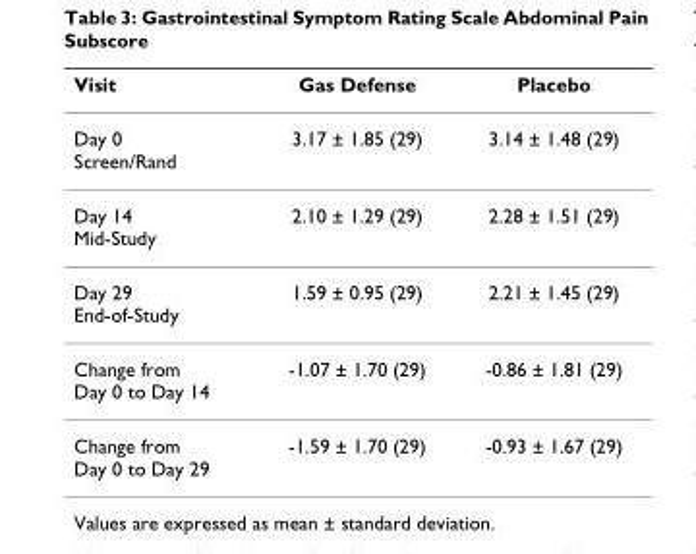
<table><thead><tr><td>Visit</td><td>Gas Defense</td><td>Placebo</td></tr></thead><tbody><tr><td>Day 0 Screen/Rand</td><td>3.17 ± 1.85 (29)</td><td>3.14 ± 1.48 (29)</td></tr><tr><td>Day 14 Mid-Study</td><td>2.10 ± 1.29 (29)</td><td>2.28 ± 1.51 (29)</td></tr><tr><td>Day 29 End-of-Study</td><td>1.59 ± 0.95 (29)</td><td>2.21 ± 1.45 (29)</td></tr><tr><td>Change from Day 0 to Day 14</td><td>-1.07 ± 1.70 (29)</td><td>-0.86 ± 1.81 (29)</td></tr><tr><td>Change from Day 0 to Day 29</td><td>-1.59 ± 1.70 (29)</td><td>-0.93 ± 1.67 (29)</td></tr></tbody></table>